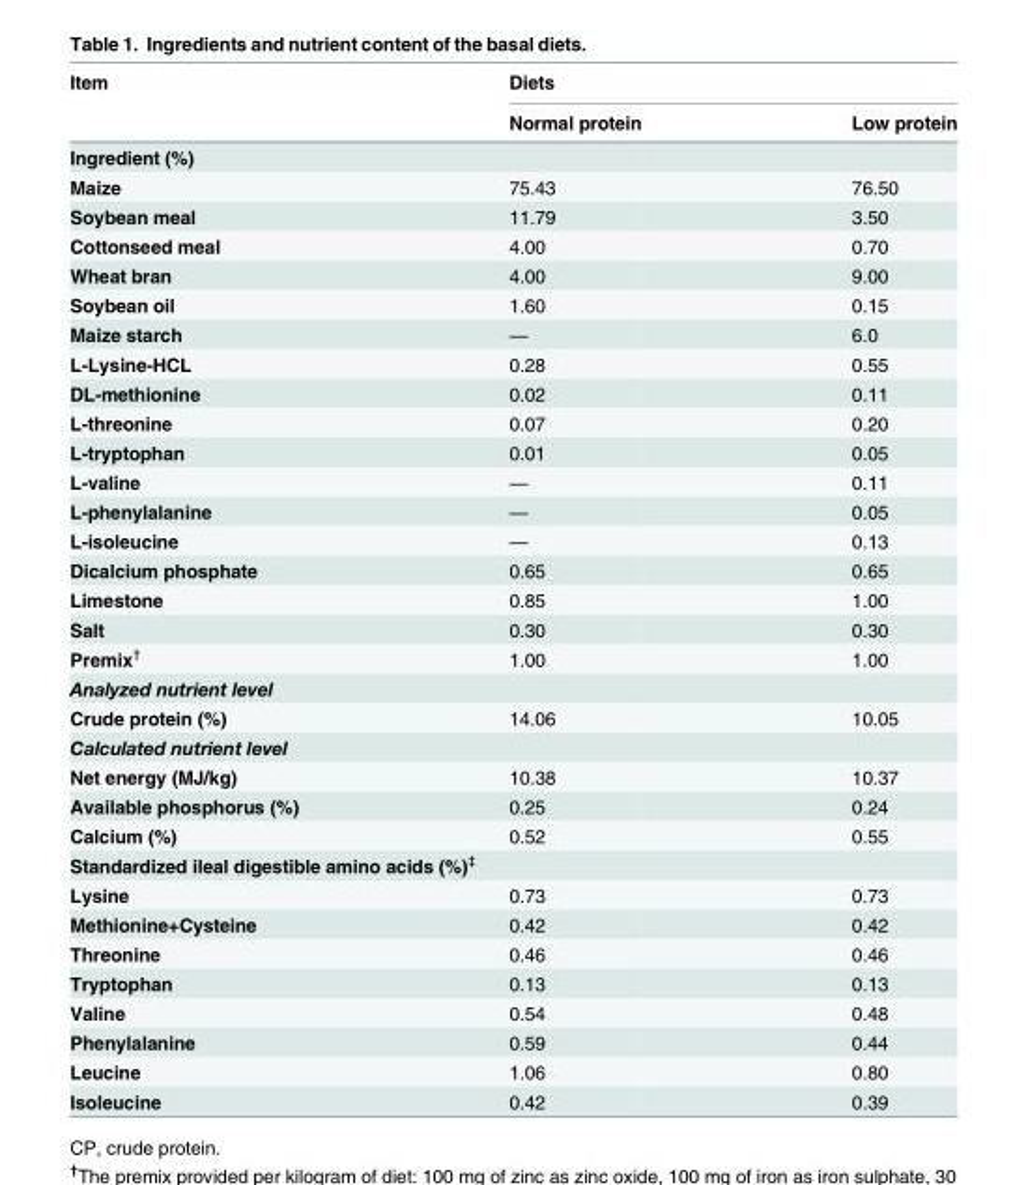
<table><thead><tr><td rowspan="2">Item</td><td colspan="2">Diets</td></tr><tr><td>Normal protein</td><td>Low protein</td></tr></thead><tbody><tr><td colspan="3">Ingredient (%)</td></tr><tr><td>Maize</td><td>75.43</td><td>76.50</td></tr><tr><td>Soybean meal</td><td>11.79</td><td>3.50</td></tr><tr><td>Cottonseed meal</td><td>4.00</td><td>0.70</td></tr><tr><td>Wheat bran</td><td>4.00</td><td>9.00</td></tr><tr><td>Soybean oil</td><td>1.60</td><td>0.15</td></tr><tr><td>Maize starch</td><td>—</td><td>6.0</td></tr><tr><td>L-Lysine-HCL</td><td>0.28</td><td>0.55</td></tr><tr><td>DL-methionine</td><td>0.02</td><td>0.11</td></tr><tr><td>L-threonine</td><td>0.07</td><td>0.20</td></tr><tr><td>L-tryptophan</td><td>0.01</td><td>0.05</td></tr><tr><td>L-valine</td><td>—</td><td>0.11</td></tr><tr><td>L-phenylalanine</td><td>—</td><td>0.05</td></tr><tr><td>L-isoleucine</td><td>—</td><td>0.13</td></tr><tr><td>Dicalcium phosphate</td><td>0.65</td><td>0.65</td></tr><tr><td>Limestone</td><td>0.85</td><td>1.00</td></tr><tr><td>Salt</td><td>0.30</td><td>0.30</td></tr><tr><td>Premix<sup>†</sup></td><td>1.00</td><td>1.00</td></tr><tr><td colspan="3">Analyzed nutrient level</td></tr><tr><td>Crude protein (%)</td><td>14.06</td><td>10.05</td></tr><tr><td colspan="3">Calculated nutrient level</td></tr><tr><td>Net energy (MJ/kg)</td><td>10.38</td><td>10.37</td></tr><tr><td>Available phosphorus (%)</td><td>0.25</td><td>0.24</td></tr><tr><td>Calcium (%)</td><td>0.52</td><td>0.55</td></tr><tr><td colspan="3">Standardized ileal digestible amino acids (%)<sup>‡</sup></td></tr><tr><td>Lysine</td><td>0.73</td><td>0.73</td></tr><tr><td>Methionine+Cysteine</td><td>0.42</td><td>0.42</td></tr><tr><td>Threonine</td><td>0.46</td><td>0.46</td></tr><tr><td>Tryptophan</td><td>0.13</td><td>0.13</td></tr><tr><td>Valine</td><td>0.54</td><td>0.48</td></tr><tr><td>Phenylalanine</td><td>0.59</td><td>0.44</td></tr><tr><td>Leucine</td><td>1.06</td><td>0.80</td></tr><tr><td>Isoleucine</td><td>0.42</td><td>0.39</td></tr></tbody></table>